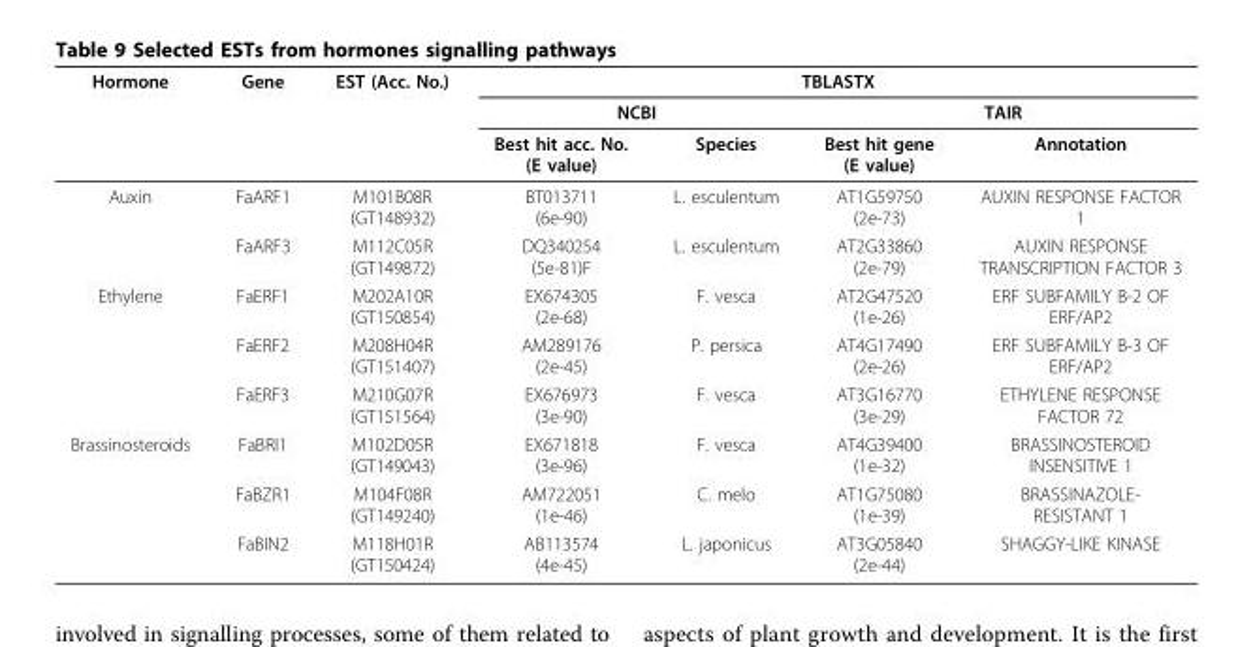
<table><thead><tr><td rowspan="3">Hormone</td><td rowspan="3">Gene</td><td rowspan="3">EST (Acc. No.)</td><td colspan="4">TBLASTX</td></tr><tr><td colspan="2">NCBI</td><td colspan="2">TAIR</td></tr><tr><td>Best hit acc. No. (E value)</td><td>Species</td><td>Best hit gene (E value)</td><td>Annotation</td></tr></thead><tbody><tr><td rowspan="2">Auxin</td><td>FaARF1</td><td>M101B08R (GT148932)</td><td>BT013711 (6e-90)</td><td>L. esculentum</td><td>AT1G59750 (2e-73)</td><td>AUXIN RESPONSE FACTOR 1</td></tr><tr><td>FaARF3</td><td>M112C05R (GT149872)</td><td>DQ340254 (5e-81)F</td><td>L. esculentum</td><td>AT2G33860 (2e-79)</td><td>AUXIN RESPONSE TRANSCRIPTION FACTOR 3</td></tr><tr><td rowspan="3">Ethylene</td><td>FaERF1</td><td>M202A10R (GT150854)</td><td>EX674305 (2e-68)</td><td>F. vesca</td><td>AT2G47520 (1e-26)</td><td>ERF SUBFAMILY B-2 OF ERF/AP2</td></tr><tr><td>FaERF2</td><td>M208H04R (GT151407)</td><td>AM289176 (2e-45)</td><td>P. persica</td><td>AT4G17490 (2e-26)</td><td>ERF SUBFAMILY B-3 OF ERF/AP2</td></tr><tr><td>FaERF3</td><td>M210G07R (GT151564)</td><td>EX676973 (3e-90)</td><td>F. vesca</td><td>AT3G16770 (3e-29)</td><td>ETHYLENE RESPONSE FACTOR 72</td></tr><tr><td rowspan="3">Brassinosteroids</td><td>FaBRI1</td><td>M102D05R (GT149043)</td><td>EX671818 (3e-96)</td><td>F. vesca</td><td>AT4G39400 (1e-32)</td><td>BRASSINOSTEROID INSENSITIVE 1</td></tr><tr><td>FaBZR1</td><td>M104F08R (GT149240)</td><td>AM722051 (1e-46)</td><td>C. melo</td><td>AT1G75080 (1e-39)</td><td>BRASSINAZOLE- RESISTANT 1</td></tr><tr><td>FaBIN2</td><td>M118H01R (GT150424)</td><td>AB113574 (4e-45)</td><td>L. japonicus</td><td>AT3G05840 (2e-44)</td><td>SHAGGY-LIKE KINASE</td></tr></tbody></table>